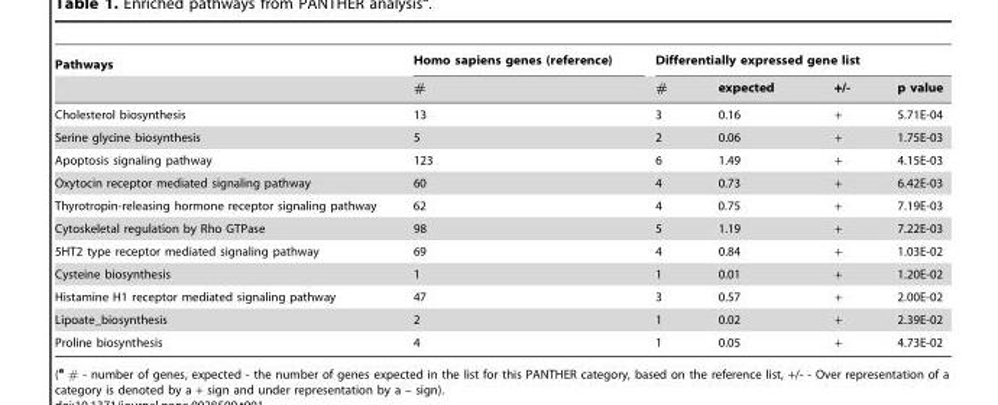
<table><thead><tr><td rowspan="2">Pathways</td><td rowspan="2">Homo sapiens genes (reference) #</td><td colspan="4">Differentially expressed gene list</td></tr><tr><td>#</td><td>expected</td><td>+/-</td><td>p value</td></tr></thead><tbody><tr><td>Cholesterol biosynthesis</td><td>13</td><td>3</td><td>0.16</td><td>+</td><td>5.71E-04</td></tr><tr><td>Serine glycine biosynthesis</td><td>5</td><td>2</td><td>0.06</td><td>+</td><td>1.75E-03</td></tr><tr><td>Apoptosis signaling pathway</td><td>123</td><td>6</td><td>1.49</td><td>+</td><td>4.15E-03</td></tr><tr><td>Oxytocin receptor mediated signaling pathway</td><td>60</td><td>4</td><td>0.73</td><td>+</td><td>6.42E-03</td></tr><tr><td>Thyrotropin-releasing hormone receptor signaling pathway</td><td>62</td><td>4</td><td>0.75</td><td>+</td><td>7.19E-03</td></tr><tr><td>Cytoskeletal regulation by Rho GTPase</td><td>98</td><td>5</td><td>1.19</td><td>+</td><td>7.22E-03</td></tr><tr><td>5HT2 type receptor mediated signaling pathway</td><td>69</td><td>4</td><td>0.84</td><td>+</td><td>1.03E-02</td></tr><tr><td>Cysteine biosynthesis</td><td>1</td><td>1</td><td>0.01</td><td>+</td><td>1.20E-02</td></tr><tr><td>Histamine H1 receptor mediated signaling pathway</td><td>47</td><td>3</td><td>0.57</td><td>+</td><td>2.00E-02</td></tr><tr><td>Lipoate_biosynthesis</td><td>2</td><td>1</td><td>0.02</td><td>+</td><td>2.39E-02</td></tr><tr><td>Proline biosynthesis</td><td>4</td><td>1</td><td>0.05</td><td>+</td><td>4.73E-02</td></tr></tbody></table>